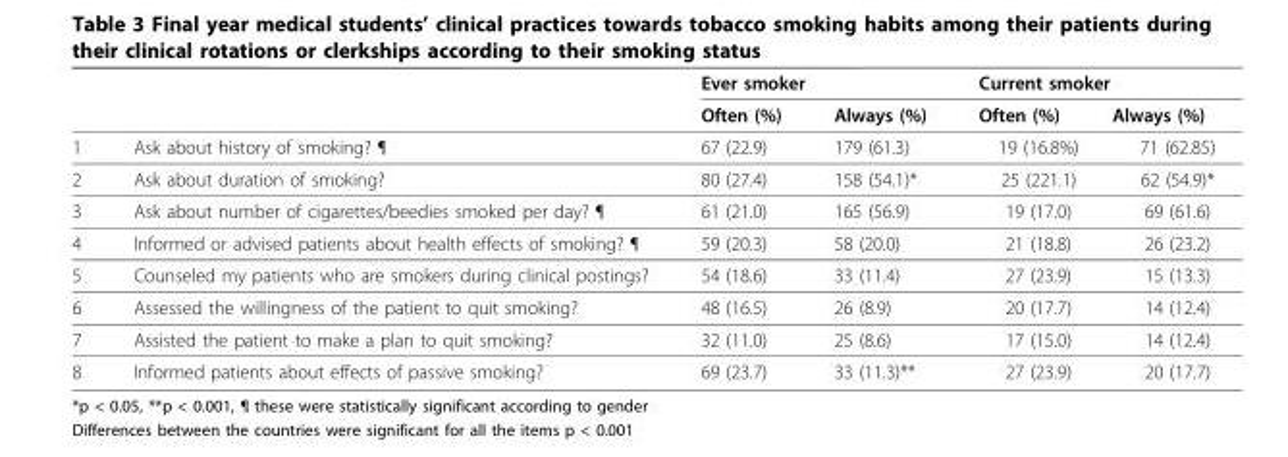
<table><thead><tr><td rowspan="2"></td><td rowspan="2"></td><td colspan="2">Ever smoker</td><td colspan="2">Current smoker</td></tr><tr><td>Often (%)</td><td>Always (%)</td><td>Often (%)</td><td>Always (%)</td></tr></thead><tbody><tr><td>1</td><td>Ask about history of smoking? ¶</td><td>67 (22.9)</td><td>179 (61.3)</td><td>19 (16.8%)</td><td>71 (62.85)</td></tr><tr><td>2</td><td>Ask about duration of smoking?</td><td>80 (27.4)</td><td>158 (54.1)*</td><td>25 (221.1)</td><td>62 (54.9)*</td></tr><tr><td>3</td><td>Ask about number of cigarettes/beedies smoked per day? ¶</td><td>61 (21.0)</td><td>165 (56.9)</td><td>19 (17.0)</td><td>69 (61.6)</td></tr><tr><td>4</td><td>Informed or advised patients about health effects of smoking? ¶</td><td>59 (20.3)</td><td>58 (20.0)</td><td>21 (18.8)</td><td>26 (23.2)</td></tr><tr><td>5</td><td>Counseled my patients who are smokers during clinical postings?</td><td>54 (18.6)</td><td>33 (11.4)</td><td>27 (23.9)</td><td>15 (13.3)</td></tr><tr><td>6</td><td>Assessed the willingness of the patient to quit smoking?</td><td>48 (16.5)</td><td>26 (8.9)</td><td>20 (17.7)</td><td>14 (12.4)</td></tr><tr><td>7</td><td>Assisted the patient to make a plan to quit smoking?</td><td>32 (11.0)</td><td>25 (8.6)</td><td>17 (15.0)</td><td>14 (12.4)</td></tr><tr><td>8</td><td>Informed patients about effects of passive smoking?</td><td>69 (23.7)</td><td>33 (11.3)**</td><td>27 (23.9)</td><td>20 (17.7)</td></tr></tbody></table>